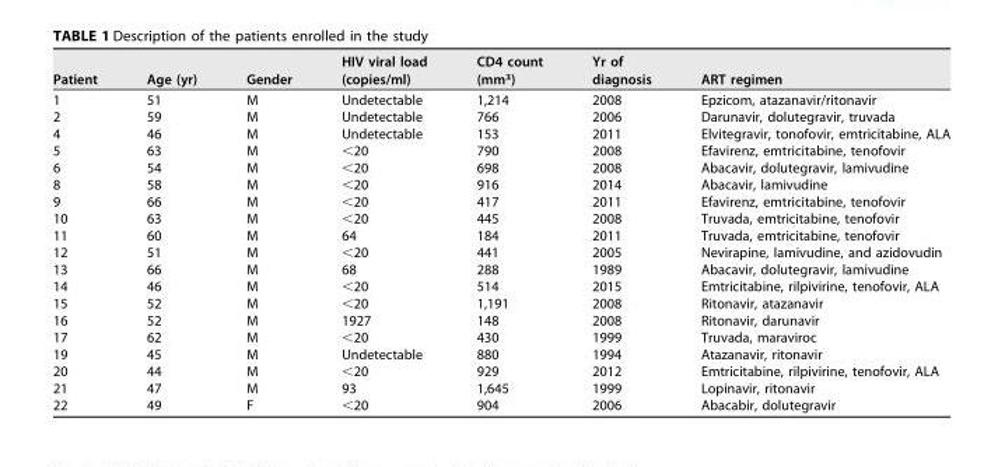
<table><thead><tr><td>Patient</td><td>Age (yr)</td><td>Gender</td><td>HIV viral load (copies/ml)</td><td>CD4 count (mm<sup>3</sup>)</td><td>Yr of diagnosis</td><td>ART regimen</td></tr></thead><tbody><tr><td>1</td><td>51</td><td>M</td><td>Undetectable</td><td>1,214</td><td>2008</td><td>Epzicom, atazanavir/ritonavir</td></tr><tr><td>2</td><td>59</td><td>M</td><td>Undetectable</td><td>766</td><td>2006</td><td>Darunavir, dolutegravir, truvada</td></tr><tr><td>4</td><td>46</td><td>M</td><td>Undetectable</td><td>153</td><td>2011</td><td>Elvitegravir, tonofovir, emtricitabine, ALA</td></tr><tr><td>5</td><td>63</td><td>M</td><td>&lt;20</td><td>790</td><td>2008</td><td>Efavirenz, emtricitabine, tenofovir</td></tr><tr><td>6</td><td>54</td><td>M</td><td>&lt;20</td><td>698</td><td>2008</td><td>Abacavir, dolutegravir, lamivudine</td></tr><tr><td>8</td><td>58</td><td>M</td><td>&lt;20</td><td>916</td><td>2014</td><td>Abacavir, lamivudine</td></tr><tr><td>9</td><td>66</td><td>M</td><td>&lt;20</td><td>417</td><td>2011</td><td>Efavirenz, emtricitabine, tenofovir</td></tr><tr><td>10</td><td>63</td><td>M</td><td>&lt;20</td><td>445</td><td>2008</td><td>Truvada, emtricitabine, tenofovir</td></tr><tr><td>11</td><td>60</td><td>M</td><td>64</td><td>184</td><td>2011</td><td>Truvada, emtricitabine, tenofovir</td></tr><tr><td>12</td><td>51</td><td>M</td><td>&lt;20</td><td>441</td><td>2005</td><td>Nevirapine, lamivudine, and azidovudin</td></tr><tr><td>13</td><td>66</td><td>M</td><td>68</td><td>288</td><td>1989</td><td>Abacavir, dolutegravir, lamivudine</td></tr><tr><td>14</td><td>46</td><td>M</td><td>&lt;20</td><td>514</td><td>2015</td><td>Emtricitabine, rilpivirine, tenofovir, ALA</td></tr><tr><td>15</td><td>52</td><td>M</td><td>&lt;20</td><td>1,191</td><td>2008</td><td>Ritonavir, atazanavir</td></tr><tr><td>16</td><td>52</td><td>M</td><td>1927</td><td>148</td><td>2008</td><td>Ritonavir, darunavir</td></tr><tr><td>17</td><td>62</td><td>M</td><td>&lt;20</td><td>430</td><td>1999</td><td>Truvada, maraviroc</td></tr><tr><td>19</td><td>45</td><td>M</td><td>Undetectable</td><td>880</td><td>1994</td><td>Atazanavir, ritonavir</td></tr><tr><td>20</td><td>44</td><td>M</td><td>&lt;20</td><td>929</td><td>2012</td><td>Emtricitabine, rilpivirine, tenofovir, ALA</td></tr><tr><td>21</td><td>47</td><td>M</td><td>93</td><td>1,645</td><td>1999</td><td>Lopinavir, ritonavir</td></tr><tr><td>22</td><td>49</td><td>F</td><td>&lt;20</td><td>904</td><td>2006</td><td>Abacabir, dolutegravir</td></tr></tbody></table>